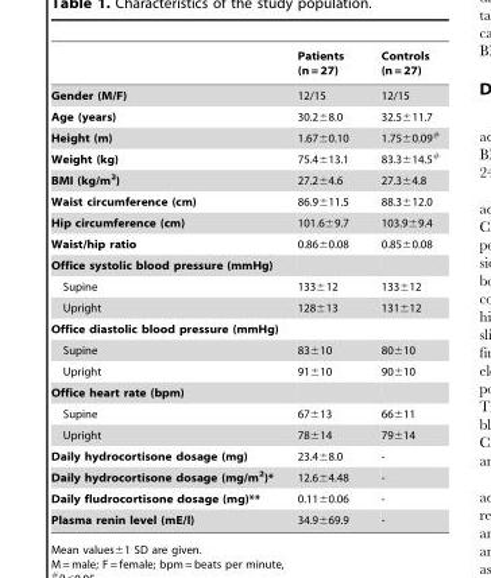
<table><thead><tr><td></td><td>Patients (n = 27)</td><td>Controls (n = 27)</td></tr></thead><tbody><tr><td>Gender (M/F)</td><td>12/15</td><td>12/15</td></tr><tr><td>Age (years)</td><td>30.2±8.0</td><td>32.5±11.7</td></tr><tr><td>Height (m)</td><td>1.67±0.10</td><td>1.75±0.09#</td></tr><tr><td>Weight (kg)</td><td>75.4±13.1</td><td>83.3±14.5#</td></tr><tr><td>BMI (kg/m<sup>2</sup>)</td><td>27.2±4.6</td><td>27.3±4.8</td></tr><tr><td>Waist circumference (cm)</td><td>86.9±11.5</td><td>88.3±12.0</td></tr><tr><td>Hip circumference (cm)</td><td>101.6±9.7</td><td>103.9±9.4</td></tr><tr><td>Waist/hip ratio</td><td>0.86±0.08</td><td>0.85±0.08</td></tr><tr><td colspan="3">Office systolic blood pressure (mmHg)</td></tr><tr><td>Supine</td><td>133±12</td><td>133±12</td></tr><tr><td>Upright</td><td>128±13</td><td>131±12</td></tr><tr><td colspan="3">Office diastolic blood pressure (mmHg)</td></tr><tr><td>Supine</td><td>83±10</td><td>80±10</td></tr><tr><td>Upright</td><td>91±10</td><td>90±10</td></tr><tr><td colspan="3">Office heart rate (bpm)</td></tr><tr><td>Supine</td><td>67±13</td><td>66±11</td></tr><tr><td>Upright</td><td>78±14</td><td>79±14</td></tr><tr><td>Daily hydrocortisone dosage (mg)</td><td>23.4±8.0</td><td>-</td></tr><tr><td>Daily hydrocortisone dosage (mg/m<sup>2</sup>)*</td><td>12.6±4.48</td><td>-</td></tr><tr><td>Daily fludrocortisone dosage (mg)**</td><td>0.11±0.06</td><td>-</td></tr><tr><td>Plasma renin level (mE/l)</td><td>34.9±69.9</td><td>-</td></tr></tbody></table>